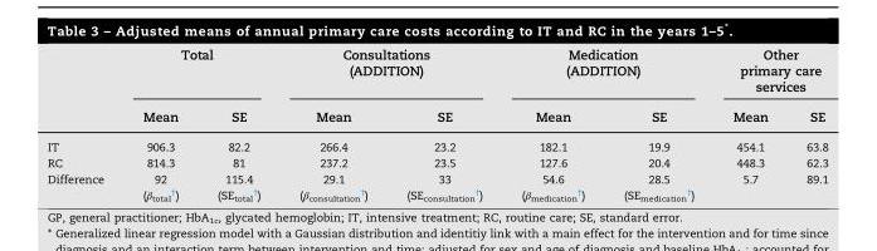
<table><thead><tr><td rowspan="2"></td><td colspan="2">Total</td><td colspan="2">Consultations (ADDITION)</td><td colspan="2">Medication (ADDITION)</td><td colspan="2">Other primary care services</td></tr><tr><td>Mean</td><td>SE</td><td>Mean</td><td>SE</td><td>Mean</td><td>SE</td><td>Mean</td><td>SE</td></tr></thead><tbody><tr><td>IT</td><td>906.3</td><td>82.2</td><td>266.4</td><td>23.2</td><td>182.1</td><td>19.9</td><td>454.1</td><td>63.8</td></tr><tr><td>RC</td><td>814.3</td><td>81</td><td>237.2</td><td>23.5</td><td>127.6</td><td>20.4</td><td>448.3</td><td>62.3</td></tr><tr><td>Difference</td><td>92 (β<sub>total</sub> †)</td><td>115.4 (SE<sub>total</sub> †)</td><td>29.1 (β<sub>consultation</sub> †)</td><td>33 (SE<sub>consultation</sub> †)</td><td>54.6 (β<sub>medication</sub> †)</td><td>28.5 (SE<sub>medication</sub> †)</td><td>5.7</td><td>89.1</td></tr></tbody></table>